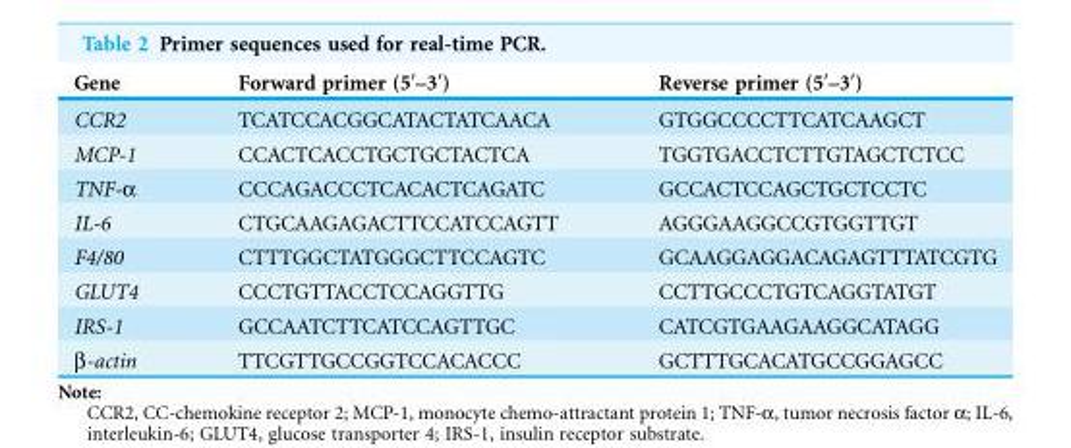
<table><thead><tr><td>Gene</td><td>Forward primer (5′–3′)</td><td>Reverse primer (5′–3′)</td></tr></thead><tbody><tr><td>CCR2</td><td>TCATCCACGGCATACTATCAACA</td><td>GTGGCCCCTTCATCAAGCT</td></tr><tr><td>MCP-1</td><td>CCACTCACCTGCTGCTACTCA</td><td>TGGTGACCTCTTGTAGCTCTCC</td></tr><tr><td>TNF-α</td><td>CCCAGACCCTCACACTCAGATC</td><td>GCCACTCCAGCTGCTCCTC</td></tr><tr><td>IL-6</td><td>CTGCAAGAGACTTCCATCCAGTT</td><td>AGGGAAGGCCGTGGTTGT</td></tr><tr><td>F4/80</td><td>CTTTGGCTATGGGCTTCCAGTC</td><td>GCAAGGAGGACAGAGTTTATCGTG</td></tr><tr><td>GLUT4</td><td>CCCTGTTACCTCCAGGTTG</td><td>CCTTGCCCTGTCAGGTATGT</td></tr><tr><td>IRS-1</td><td>GCCAATCTTCATCCAGTTGC</td><td>CATCGTGAAGAAGGCATAGG</td></tr><tr><td>β-actin</td><td>TTCGTTGCCGGTCCACACCC</td><td>GCTTTGCACATGCCGGAGCC</td></tr></tbody></table>